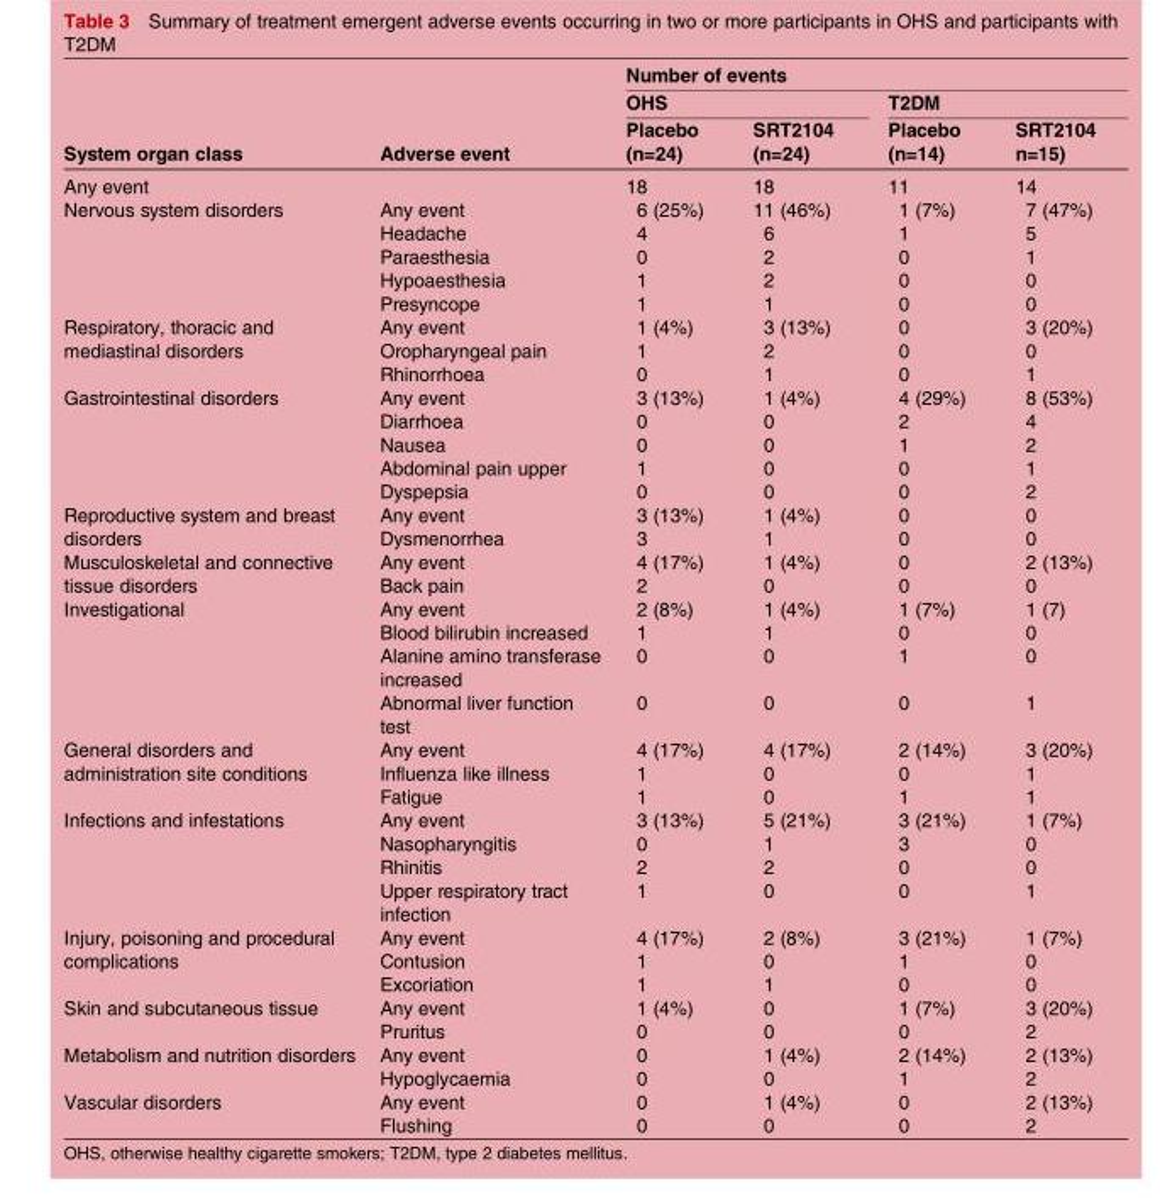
<table><thead><tr><td rowspan="3">System organ class</td><td rowspan="3">Adverse event</td><td colspan="4">Number of events</td></tr><tr><td colspan="2">OHS</td><td colspan="2">T2DM</td></tr><tr><td>Placebo (n=24)</td><td>SRT2104 (n=24)</td><td>Placebo (n=14)</td><td>SRT2104 n=15)</td></tr></thead><tbody><tr><td>Any event</td><td></td><td>18</td><td>18</td><td>11</td><td>14</td></tr><tr><td rowspan="5">Nervous system disorders</td><td>Any event</td><td>6 (25%)</td><td>11 (46%)</td><td>1 (7%)</td><td>7 (47%)</td></tr><tr><td>Headache</td><td>4</td><td>6</td><td>1</td><td>5</td></tr><tr><td>Paraesthesia</td><td>0</td><td>2</td><td>0</td><td>1</td></tr><tr><td>Hypoaesthesia</td><td>1</td><td>2</td><td>0</td><td>0</td></tr><tr><td>Presyncope</td><td>1</td><td>1</td><td>0</td><td>0</td></tr><tr><td rowspan="3">Respiratory, thoracic and mediastinal disorders</td><td>Any event</td><td>1 (4%)</td><td>3 (13%)</td><td>0</td><td>3 (20%)</td></tr><tr><td>Oropharyngeal pain</td><td>1</td><td>2</td><td>0</td><td>0</td></tr><tr><td>Rhinorrhoea</td><td>0</td><td>1</td><td>0</td><td>1</td></tr><tr><td rowspan="5">Gastrointestinal disorders</td><td>Any event</td><td>3 (13%)</td><td>1 (4%)</td><td>4 (29%)</td><td>8 (53%)</td></tr><tr><td>Diarrhoea</td><td>0</td><td>0</td><td>2</td><td>4</td></tr><tr><td>Nausea</td><td>0</td><td>0</td><td>1</td><td>2</td></tr><tr><td>Abdominal pain upper</td><td>1</td><td>0</td><td>0</td><td>1</td></tr><tr><td>Dyspepsia</td><td>0</td><td>0</td><td>0</td><td>2</td></tr><tr><td rowspan="2">Reproductive system and breast disorders</td><td>Any event</td><td>3 (13%)</td><td>1 (4%)</td><td>0</td><td>0</td></tr><tr><td>Dysmenorrhea</td><td>3</td><td>1</td><td>0</td><td>0</td></tr><tr><td rowspan="2">Musculoskeletal and connective tissue disorders</td><td>Any event</td><td>4 (17%)</td><td>1 (4%)</td><td>0</td><td>2 (13%)</td></tr><tr><td>Back pain</td><td>2</td><td>0</td><td>0</td><td>0</td></tr><tr><td rowspan="4">Investigational</td><td>Any event</td><td>2 (8%)</td><td>1 (4%)</td><td>1 (7%)</td><td>1 (7)</td></tr><tr><td>Blood bilirubin increased</td><td>1</td><td>1</td><td>0</td><td>0</td></tr><tr><td>Alanine amino transferase increased</td><td>0</td><td>0</td><td>1</td><td>0</td></tr><tr><td>Abnormal liver function test</td><td>0</td><td>0</td><td>0</td><td>1</td></tr><tr><td rowspan="3">General disorders and administration site conditions</td><td>Any event</td><td>4 (17%)</td><td>4 (17%)</td><td>2 (14%)</td><td>3 (20%)</td></tr><tr><td>Influenza like illness</td><td>1</td><td>0</td><td>0</td><td>1</td></tr><tr><td>Fatigue</td><td>1</td><td>0</td><td>1</td><td>1</td></tr><tr><td rowspan="4">Infections and infestations</td><td>Any event</td><td>3 (13%)</td><td>5 (21%)</td><td>3 (21%)</td><td>1 (7%)</td></tr><tr><td>Nasopharyngitis</td><td>0</td><td>1</td><td>3</td><td>0</td></tr><tr><td>Rhinitis</td><td>2</td><td>2</td><td>0</td><td>0</td></tr><tr><td>Upper respiratory tract infection</td><td>1</td><td>0</td><td>0</td><td>1</td></tr><tr><td rowspan="3">Injury, poisoning and procedural complications</td><td>Any event</td><td>4 (17%)</td><td>2 (8%)</td><td>3 (21%)</td><td>1 (7%)</td></tr><tr><td>Contusion</td><td>1</td><td>0</td><td>1</td><td>0</td></tr><tr><td>Excoriation</td><td>1</td><td>1</td><td>0</td><td>0</td></tr><tr><td rowspan="2">Skin and subcutaneous tissue</td><td>Any event</td><td>1 (4%)</td><td>0</td><td>1 (7%)</td><td>3 (20%)</td></tr><tr><td>Pruritus</td><td>0</td><td>0</td><td>0</td><td>2</td></tr><tr><td rowspan="2">Metabolism and nutrition disorders</td><td>Any event</td><td>0</td><td>1 (4%)</td><td>2 (14%)</td><td>2 (13%)</td></tr><tr><td>Hypoglycaemia</td><td>0</td><td>0</td><td>1</td><td>2</td></tr><tr><td rowspan="2">Vascular disorders</td><td>Any event</td><td>0</td><td>1 (4%)</td><td>0</td><td>2 (13%)</td></tr><tr><td>Flushing</td><td>0</td><td>0</td><td>0</td><td>2</td></tr></tbody></table>